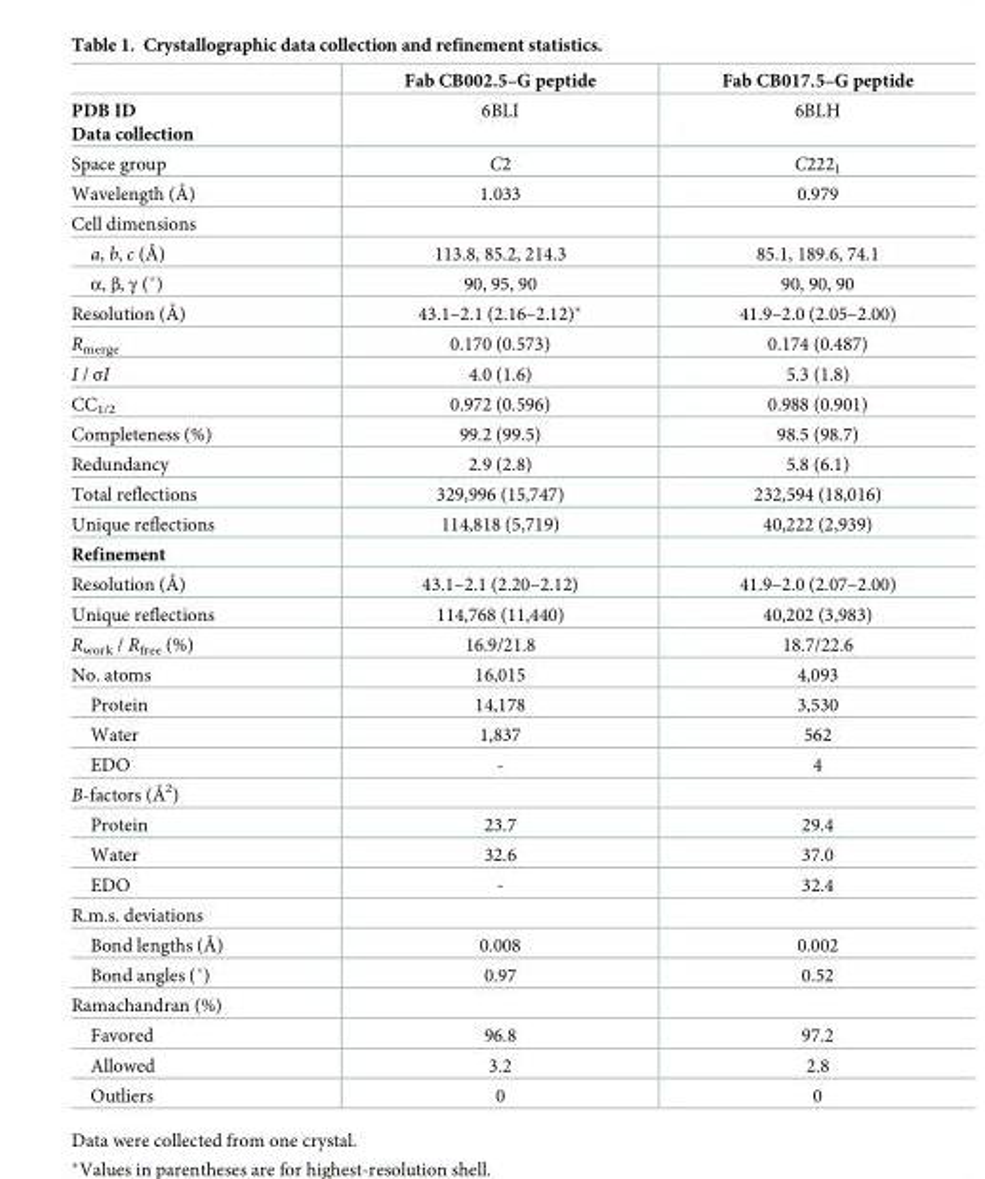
<table><thead><tr><td></td><td>Fab CB002.5–G peptide</td><td>Fab CB017.5–G peptide</td></tr></thead><tbody><tr><td>PDB ID Data collection</td><td>6BLI</td><td>6BLH</td></tr><tr><td>Space group</td><td>C2</td><td>C222<sub>1</sub></td></tr><tr><td>Wavelength (Å)</td><td>1.033</td><td>0.979</td></tr><tr><td colspan="3">Cell dimensions</td></tr><tr><td>a, b, c (Å)</td><td>113.8, 85.2, 214.3</td><td>85.1, 189.6, 74.1</td></tr><tr><td>α, β, γ (˚)</td><td>90, 95, 90</td><td>90, 90, 90</td></tr><tr><td>Resolution (Å)</td><td>43.1–2.1 (2.16–2.12)*</td><td>41.9–2.0 (2.05–2.00)</td></tr><tr><td>R<sub>merge</sub></td><td>0.170 (0.573)</td><td>0.174 (0.487)</td></tr><tr><td>I / σI</td><td>4.0 (1.6)</td><td>5.3 (1.8)</td></tr><tr><td>CC<sub>1/2</sub></td><td>0.972 (0.596)</td><td>0.988 (0.901)</td></tr><tr><td>Completeness (%)</td><td>99.2 (99.5)</td><td>98.5 (98.7)</td></tr><tr><td>Redundancy</td><td>2.9 (2.8)</td><td>5.8 (6.1)</td></tr><tr><td>Total reflections</td><td>329,996 (15,747)</td><td>232,594 (18,016)</td></tr><tr><td>Unique reflections</td><td>114,818 (5,719)</td><td>40,222 (2,939)</td></tr><tr><td colspan="3">Refinement</td></tr><tr><td>Resolution (Å)</td><td>43.1–2.1 (2.20–2.12)</td><td>41.9–2.0 (2.07–2.00)</td></tr><tr><td>Unique reflections</td><td>114,768 (11,440)</td><td>40,202 (3,983)</td></tr><tr><td>R<sub>work</sub> / R<sub>free</sub> (%)</td><td>16.9/21.8</td><td>18.7/22.6</td></tr><tr><td>No. atoms</td><td>16,015</td><td>4,093</td></tr><tr><td>Protein</td><td>14,178</td><td>3,530</td></tr><tr><td>Water</td><td>1,837</td><td>562</td></tr><tr><td>EDO</td><td>-</td><td>4</td></tr><tr><td colspan="3">B-factors (Å<sup>2</sup>)</td></tr><tr><td>Protein</td><td>23.7</td><td>29.4</td></tr><tr><td>Water</td><td>32.6</td><td>37.0</td></tr><tr><td>EDO</td><td>-</td><td>32.4</td></tr><tr><td colspan="3">R.m.s. deviations</td></tr><tr><td>Bond lengths (Å)</td><td>0.008</td><td>0.002</td></tr><tr><td>Bond angles (˚)</td><td>0.97</td><td>0.52</td></tr><tr><td colspan="3">Ramachandran (%)</td></tr><tr><td>Favored</td><td>96.8</td><td>97.2</td></tr><tr><td>Allowed</td><td>3.2</td><td>2.8</td></tr><tr><td>Outliers</td><td>0</td><td>0</td></tr></tbody></table>